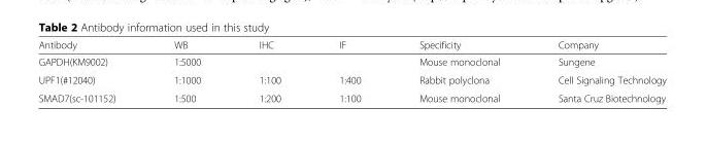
<table><thead><tr><td>Antibody</td><td>WB</td><td>IHC</td><td>IF</td><td>Specificity</td><td>Company</td></tr></thead><tbody><tr><td>GAPDH(KM9002)</td><td>1:5000</td><td></td><td></td><td>Mouse monoclonal</td><td>Sungene</td></tr><tr><td>UPF1(#12040)</td><td>1:1000</td><td>1:100</td><td>1:400</td><td>Rabbit polyclona</td><td>Cell Signaling Technology</td></tr><tr><td>SMAD7(sc-101152)</td><td>1:500</td><td>1:200</td><td>1:100</td><td>Mouse monoclonal</td><td>Santa Cruz Biotechnology</td></tr></tbody></table>